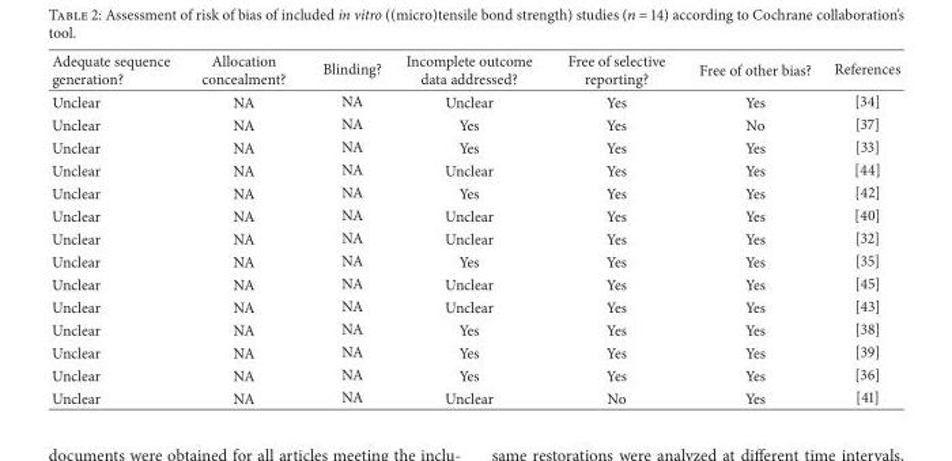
<table><tbody><tr><td>Adequate sequence generation?</td><td>Allocation concealment?</td><td>Blinding?</td><td>Incomplete outcome data addressed?</td><td>Free of selective reporting?</td><td>Free of other bias?</td><td>References</td></tr><tr><td>Unclear</td><td>NA</td><td>NA</td><td>Unclear</td><td>Yes</td><td>Yes</td><td>[34]</td></tr><tr><td>Unclear</td><td>NA</td><td>NA</td><td>Yes</td><td>Yes</td><td>No</td><td>[37]</td></tr><tr><td>Unclear</td><td>NA</td><td>NA</td><td>Yes</td><td>Yes</td><td>Yes</td><td>[33]</td></tr><tr><td>Unclear</td><td>NA</td><td>NA</td><td>Unclear</td><td>Yes</td><td>Yes</td><td>[44]</td></tr><tr><td>Unclear</td><td>NA</td><td>NA</td><td>Yes</td><td>Yes</td><td>Yes</td><td>[42]</td></tr><tr><td>Unclear</td><td>NA</td><td>NA</td><td>Unclear</td><td>Yes</td><td>Yes</td><td>[40]</td></tr><tr><td>Unclear</td><td>NA</td><td>NA</td><td>Unclear</td><td>Yes</td><td>Yes</td><td>[32]</td></tr><tr><td>Unclear</td><td>NA</td><td>NA</td><td>Yes</td><td>Yes</td><td>Yes</td><td>[35]</td></tr><tr><td>Unclear</td><td>NA</td><td>NA</td><td>Unclear</td><td>Yes</td><td>Yes</td><td>[45]</td></tr><tr><td>Unclear</td><td>NA</td><td>NA</td><td>Unclear</td><td>Yes</td><td>Yes</td><td>[43]</td></tr><tr><td>Unclear</td><td>NA</td><td>NA</td><td>Yes</td><td>Yes</td><td>Yes</td><td>[38]</td></tr><tr><td>Unclear</td><td>NA</td><td>NA</td><td>Yes</td><td>Yes</td><td>Yes</td><td>[39]</td></tr><tr><td>Unclear</td><td>NA</td><td>NA</td><td>Yes</td><td>Yes</td><td>Yes</td><td>[36]</td></tr><tr><td>Unclear</td><td>NA</td><td>NA</td><td>Unclear</td><td>No</td><td>Yes</td><td>[41]</td></tr></tbody></table>